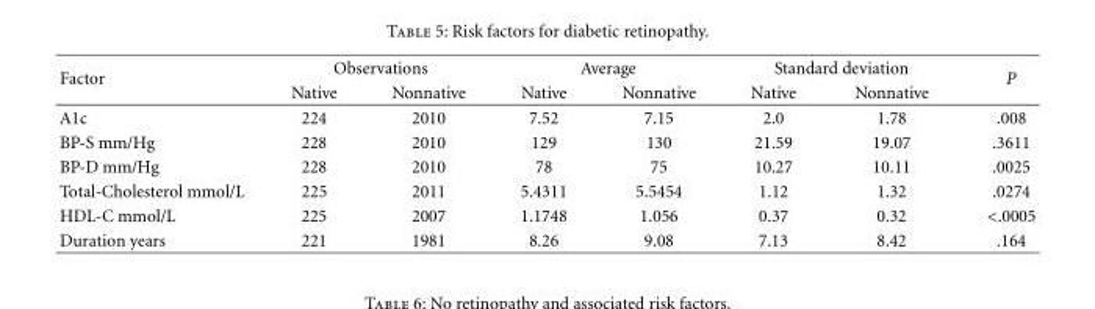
<table><thead><tr><td rowspan="2">Factor</td><td colspan="2">Observations</td><td colspan="2">Average</td><td colspan="2">Standard deviation</td><td rowspan="2">P</td></tr><tr><td>Native</td><td>Nonnative</td><td>Native</td><td>Nonnative</td><td>Native</td><td>Nonnative</td></tr></thead><tbody><tr><td>A1c</td><td>224</td><td>2010</td><td>7.52</td><td>7.15</td><td>2.0</td><td>1.78</td><td>.008</td></tr><tr><td>BP-S mm/Hg</td><td>228</td><td>2010</td><td>129</td><td>130</td><td>21.59</td><td>19.07</td><td>.3611</td></tr><tr><td>BP-D mm/Hg</td><td>228</td><td>2010</td><td>78</td><td>75</td><td>10.27</td><td>10.11</td><td>.0025</td></tr><tr><td>Total-Cholesterol mmol/L</td><td>225</td><td>2011</td><td>5.4311</td><td>5.5454</td><td>1.12</td><td>1.32</td><td>.0274</td></tr><tr><td>HDL-C mmol/L</td><td>225</td><td>2007</td><td>1.1748</td><td>1.056</td><td>0.37</td><td>0.32</td><td>&lt;.0005</td></tr><tr><td>Duration years</td><td>221</td><td>1981</td><td>8.26</td><td>9.08</td><td>7.13</td><td>8.42</td><td>.164</td></tr></tbody></table>